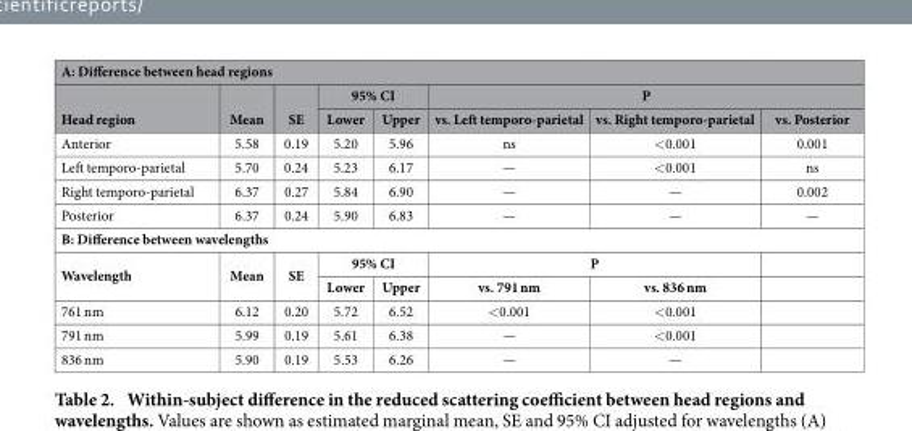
<table><thead><tr><td colspan="8">A: Difference between head regions</td></tr><tr><td rowspan="2">Head region</td><td rowspan="2">Mean</td><td rowspan="2">SE</td><td colspan="2">95% CI</td><td colspan="3">P</td></tr><tr><td>Lower</td><td>Upper</td><td>vs. Left temporo-parietal</td><td>vs. Right temporo-parietal</td><td>vs. Posterior</td></tr></thead><tbody><tr><td>Anterior</td><td>5.58</td><td>0.19</td><td>5.20</td><td>5.96</td><td>ns</td><td>&lt; 0.001</td><td>0.001</td></tr><tr><td>Left temporo-parietal</td><td>5.70</td><td>0.24</td><td>5.23</td><td>6.17</td><td>—</td><td>&lt; 0.001</td><td>ns</td></tr><tr><td>Right temporo-parietal</td><td>6.37</td><td>0.27</td><td>5.84</td><td>6.90</td><td>—</td><td>—</td><td>0.002</td></tr><tr><td>Posterior</td><td>6.37</td><td>0.24</td><td>5.90</td><td>6.83</td><td>—</td><td>—</td><td>—</td></tr><tr><td colspan="8">B: Difference between wavelengths</td></tr><tr><td rowspan="2">Wavelength</td><td rowspan="2">Mean</td><td rowspan="2">SE</td><td colspan="2">95% CI</td><td colspan="2">P</td><td></td></tr><tr><td>Lower</td><td>Upper</td><td>vs. 791 nm</td><td>vs. 836 nm</td><td></td></tr><tr><td>761 nm</td><td>6.12</td><td>0.20</td><td>5.72</td><td>6.52</td><td>&lt; 0.001</td><td>&lt; 0.001</td><td></td></tr><tr><td>791 nm</td><td>5.99</td><td>0.19</td><td>5.61</td><td>6.38</td><td>—</td><td>&lt; 0.001</td><td></td></tr><tr><td>836 nm</td><td>5.90</td><td>0.19</td><td>5.53</td><td>6.26</td><td>—</td><td>—</td><td></td></tr></tbody></table>